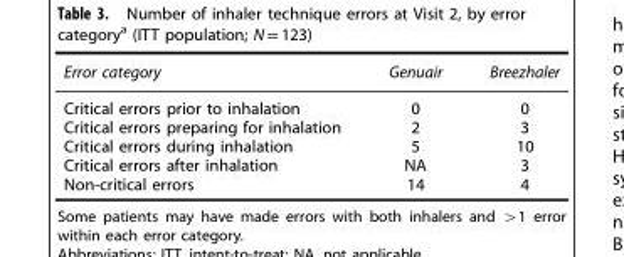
<table><thead><tr><td>Error category</td><td>Genuair</td><td>Breezhaler</td></tr></thead><tbody><tr><td>Critical errors prior to inhalation</td><td>0</td><td>0</td></tr><tr><td>Critical errors preparing for inhalation</td><td>2</td><td>3</td></tr><tr><td>Critical errors during inhalation</td><td>5</td><td>10</td></tr><tr><td>Critical errors after inhalation</td><td>NA</td><td>3</td></tr><tr><td>Non-critical errors</td><td>14</td><td>4</td></tr></tbody></table>